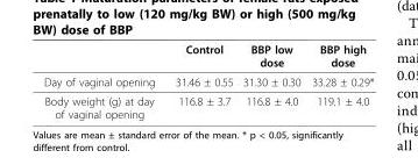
<table><thead><tr><td></td><td>Control</td><td>BBP low dose</td><td>BBP high dose</td></tr></thead><tbody><tr><td>Day of vaginal opening</td><td>31.46 ± 0.55</td><td>31.30 ± 0.30</td><td>33.28 ± 0.29*</td></tr><tr><td>Body weight (g) at day of vaginal opening</td><td>116.8 ± 3.7</td><td>116.8 ± 4.0</td><td>119.1 ± 4.0</td></tr></tbody></table>